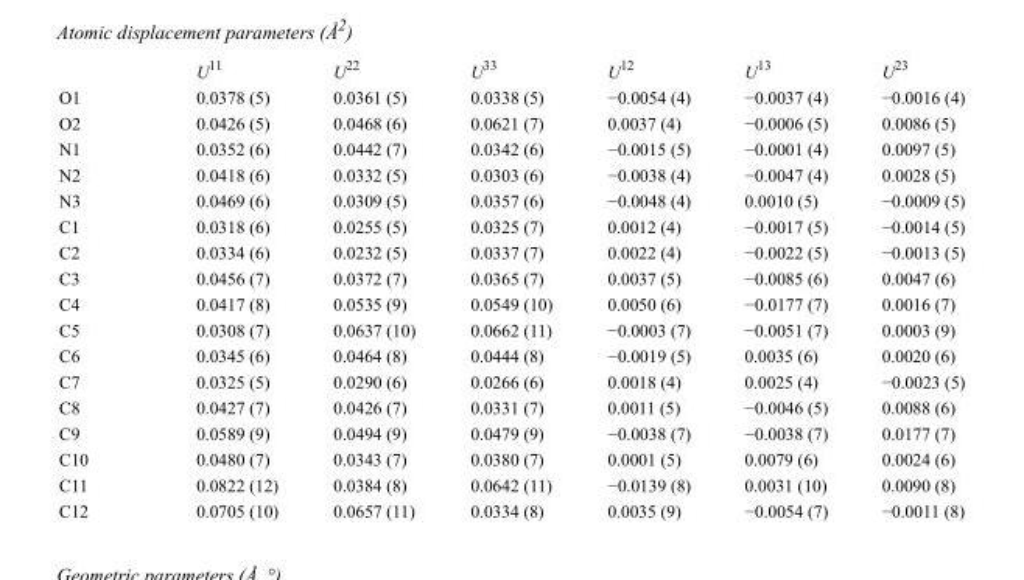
<table><thead><tr><td></td><td>U<sup>11</sup></td><td>U<sup>22</sup></td><td>U<sup>33</sup></td><td>U<sup>12</sup></td><td>U<sup>13</sup></td><td>U<sup>23</sup></td></tr></thead><tbody><tr><td>O1</td><td>0.0378 (5)</td><td>0.0361 (5)</td><td>0.0338 (5)</td><td>−0.0054 (4)</td><td>−0.0037 (4)</td><td>−0.0016 (4)</td></tr><tr><td>O2</td><td>0.0426 (5)</td><td>0.0468 (6)</td><td>0.0621 (7)</td><td>0.0037 (4)</td><td>−0.0006 (5)</td><td>0.0086 (5)</td></tr><tr><td>N1</td><td>0.0352 (6)</td><td>0.0442 (7)</td><td>0.0342 (6)</td><td>−0.0015 (5)</td><td>−0.0001 (4)</td><td>0.0097 (5)</td></tr><tr><td>N2</td><td>0.0418 (6)</td><td>0.0332 (5)</td><td>0.0303 (6)</td><td>−0.0038 (4)</td><td>−0.0047 (4)</td><td>0.0028 (5)</td></tr><tr><td>N3</td><td>0.0469 (6)</td><td>0.0309 (5)</td><td>0.0357 (6)</td><td>−0.0048 (4)</td><td>0.0010 (5)</td><td>−0.0009 (5)</td></tr><tr><td>C1</td><td>0.0318 (6)</td><td>0.0255 (5)</td><td>0.0325 (7)</td><td>0.0012 (4)</td><td>−0.0017 (5)</td><td>−0.0014 (5)</td></tr><tr><td>C2</td><td>0.0334 (6)</td><td>0.0232 (5)</td><td>0.0337 (7)</td><td>0.0022 (4)</td><td>−0.0022 (5)</td><td>−0.0013 (5)</td></tr><tr><td>C3</td><td>0.0456 (7)</td><td>0.0372 (7)</td><td>0.0365 (7)</td><td>0.0037 (5)</td><td>−0.0085 (6)</td><td>0.0047 (6)</td></tr><tr><td>C4</td><td>0.0417 (8)</td><td>0.0535 (9)</td><td>0.0549 (10)</td><td>0.0050 (6)</td><td>−0.0177 (7)</td><td>0.0016 (7)</td></tr><tr><td>C5</td><td>0.0308 (7)</td><td>0.0637 (10)</td><td>0.0662 (11)</td><td>−0.0003 (7)</td><td>−0.0051 (7)</td><td>0.0003 (9)</td></tr><tr><td>C6</td><td>0.0345 (6)</td><td>0.0464 (8)</td><td>0.0444 (8)</td><td>−0.0019 (5)</td><td>0.0035 (6)</td><td>0.0020 (6)</td></tr><tr><td>C7</td><td>0.0325 (5)</td><td>0.0290 (6)</td><td>0.0266 (6)</td><td>0.0018 (4)</td><td>0.0025 (4)</td><td>−0.0023 (5)</td></tr><tr><td>C8</td><td>0.0427 (7)</td><td>0.0426 (7)</td><td>0.0331 (7)</td><td>0.0011 (5)</td><td>−0.0046 (5)</td><td>0.0088 (6)</td></tr><tr><td>C9</td><td>0.0589 (9)</td><td>0.0494 (9)</td><td>0.0479 (9)</td><td>−0.0038 (7)</td><td>−0.0038 (7)</td><td>0.0177 (7)</td></tr><tr><td>C10</td><td>0.0480 (7)</td><td>0.0343 (7)</td><td>0.0380 (7)</td><td>0.0001 (5)</td><td>0.0079 (6)</td><td>0.0024 (6)</td></tr><tr><td>C11</td><td>0.0822 (12)</td><td>0.0384 (8)</td><td>0.0642 (11)</td><td>−0.0139 (8)</td><td>0.0031 (10)</td><td>0.0090 (8)</td></tr><tr><td>C12</td><td>0.0705 (10)</td><td>0.0657 (11)</td><td>0.0334 (8)</td><td>0.0035 (9)</td><td>−0.0054 (7)</td><td>−0.0011 (8)</td></tr></tbody></table>